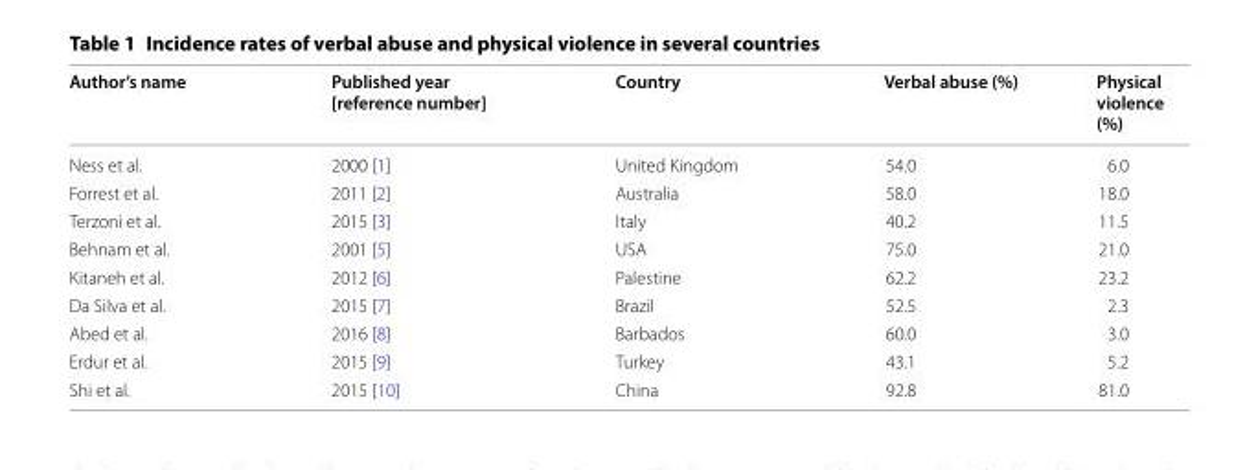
<table><thead><tr><td>Author’s name</td><td>Published year [reference number]</td><td>Country</td><td>Verbal abuse (%)</td><td>Physical violence (%)</td></tr></thead><tbody><tr><td>Ness et al.</td><td>2000 [1]</td><td>United Kingdom</td><td>54.0</td><td>6.0</td></tr><tr><td>Forrest et al.</td><td>2011 [2]</td><td>Australia</td><td>58.0</td><td>18.0</td></tr><tr><td>Terzoni et al.</td><td>2015 [3]</td><td>Italy</td><td>40.2</td><td>11.5</td></tr><tr><td>Behnam et al.</td><td>2001 [5]</td><td>USA</td><td>75.0</td><td>21.0</td></tr><tr><td>Kitaneh et al.</td><td>2012 [6]</td><td>Palestine</td><td>62.2</td><td>23.2</td></tr><tr><td>Da Silva et al.</td><td>2015 [7]</td><td>Brazil</td><td>52.5</td><td>2.3</td></tr><tr><td>Abed et al.</td><td>2016 [8]</td><td>Barbados</td><td>60.0</td><td>3.0</td></tr><tr><td>Erdur et al.</td><td>2015 [9]</td><td>Turkey</td><td>43.1</td><td>5.2</td></tr><tr><td>Shi et al.</td><td>2015 [10]</td><td>China</td><td>92.8</td><td>81.0</td></tr></tbody></table>